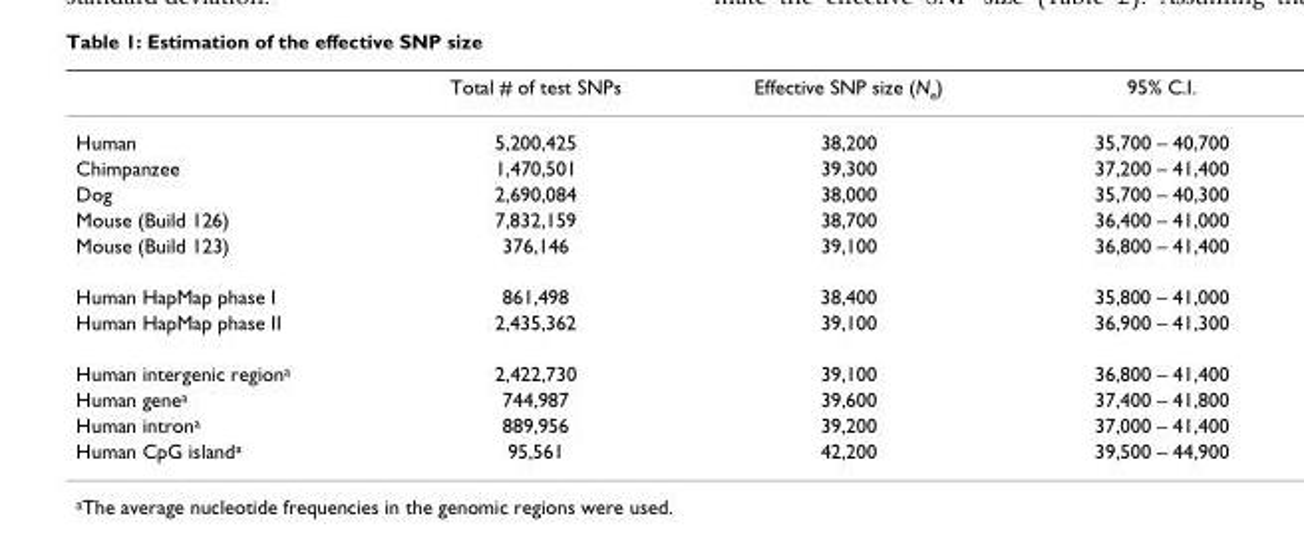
<table><thead><tr><td></td><td>Total # of test SNPs</td><td>Effective SNP size (Ne)</td><td>95% C.I.</td></tr></thead><tbody><tr><td>Human</td><td>5,200,425</td><td>38,200</td><td>35,700 – 40,700</td></tr><tr><td>Chimpanzee</td><td>1,470,501</td><td>39,300</td><td>37,200 – 41,400</td></tr><tr><td>Dog</td><td>2,690,084</td><td>38,000</td><td>35,700 – 40,300</td></tr><tr><td>Mouse (Build 126)</td><td>7,832,159</td><td>38,700</td><td>36,400 – 41,000</td></tr><tr><td>Mouse (Build 123)</td><td>376,146</td><td>39,100</td><td>36,800 – 41,400</td></tr><tr><td>Human HapMap phase I</td><td>861,498</td><td>38,400</td><td>35,800 – 41,000</td></tr><tr><td>Human HapMap phase II</td><td>2,435,362</td><td>39,100</td><td>36,900 – 41,300</td></tr><tr><td>Human intergenic regiona</td><td>2,422,730</td><td>39,100</td><td>36,800 – 41,400</td></tr><tr><td>Human genea</td><td>744,987</td><td>39,600</td><td>37,400 – 41,800</td></tr><tr><td>Human introna</td><td>889,956</td><td>39,200</td><td>37,000 – 41,400</td></tr><tr><td>Human CpG islanda</td><td>95,561</td><td>42,200</td><td>39,500 – 44,900</td></tr></tbody></table>